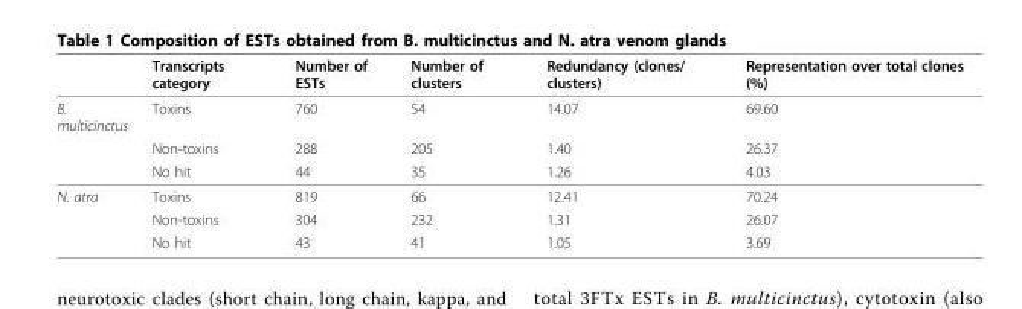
<table><thead><tr><td></td><td>Transcripts category</td><td>Number of ESTs</td><td>Number of clusters</td><td>Redundancy (clones/ clusters)</td><td>Representation over total clones (%)</td></tr></thead><tbody><tr><td rowspan="3">B. multicinctus</td><td>Toxins</td><td>760</td><td>54</td><td>14.07</td><td>69.60</td></tr><tr><td>Non-toxins</td><td>288</td><td>205</td><td>1.40</td><td>26.37</td></tr><tr><td>No hit</td><td>44</td><td>35</td><td>1.26</td><td>4.03</td></tr><tr><td rowspan="3">N. atra</td><td>Toxins</td><td>819</td><td>66</td><td>12.41</td><td>70.24</td></tr><tr><td>Non-toxins</td><td>304</td><td>232</td><td>1.31</td><td>26.07</td></tr><tr><td>No hit</td><td>43</td><td>41</td><td>1.05</td><td>3.69</td></tr></tbody></table>